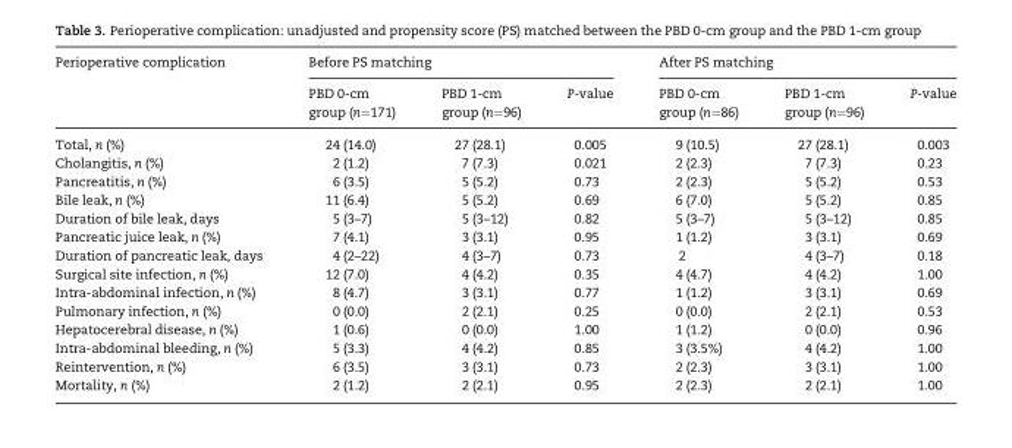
<table><thead><tr><td rowspan="2">Perioperative complication</td><td colspan="3">Before PS matching</td><td colspan="3">After PS matching</td></tr><tr><td>PBD 0-cm group (n=171)</td><td>PBD 1-cm group (n=96)</td><td>P-value</td><td>PBD 0-cm group (n=86)</td><td>PBD 1-cm group (n=96)</td><td>P-value</td></tr></thead><tbody><tr><td>Total, n (%)</td><td>24 (14.0)</td><td>27 (28.1)</td><td>0.005</td><td>9 (10.5)</td><td>27 (28.1)</td><td>0.003</td></tr><tr><td>Cholangitis, n (%)</td><td>2 (1.2)</td><td>7 (7.3)</td><td>0.021</td><td>2 (2.3)</td><td>7 (7.3)</td><td>0.23</td></tr><tr><td>Pancreatitis, n (%)</td><td>6 (3.5)</td><td>5 (5.2)</td><td>0.73</td><td>2 (2.3)</td><td>5 (5.2)</td><td>0.53</td></tr><tr><td>Bile leak, n (%)</td><td>11 (6.4)</td><td>5 (5.2)</td><td>0.69</td><td>6 (7.0)</td><td>5 (5.2)</td><td>0.85</td></tr><tr><td>Duration of bile leak, days</td><td>5 (3–7)</td><td>5 (3–12)</td><td>0.82</td><td>5 (3–7)</td><td>5 (3–12)</td><td>0.85</td></tr><tr><td>Pancreatic juice leak, n (%)</td><td>7 (4.1)</td><td>3 (3.1)</td><td>0.95</td><td>1 (1.2)</td><td>3 (3.1)</td><td>0.69</td></tr><tr><td>Duration of pancreatic leak, days</td><td>4 (2–22)</td><td>4 (3–7)</td><td>0.73</td><td>2</td><td>4 (3–7)</td><td>0.18</td></tr><tr><td>Surgical site infection, n (%)</td><td>12 (7.0)</td><td>4 (4.2)</td><td>0.35</td><td>4 (4.7)</td><td>4 (4.2)</td><td>1.00</td></tr><tr><td>Intra-abdominal infection, n (%)</td><td>8 (4.7)</td><td>3 (3.1)</td><td>0.77</td><td>1 (1.2)</td><td>3 (3.1)</td><td>0.69</td></tr><tr><td>Pulmonary infection, n (%)</td><td>0 (0.0)</td><td>2 (2.1)</td><td>0.25</td><td>0 (0.0)</td><td>2 (2.1)</td><td>0.53</td></tr><tr><td>Hepatocerebral disease, n (%)</td><td>1 (0.6)</td><td>0 (0.0)</td><td>1.00</td><td>1 (1.2)</td><td>0 (0.0)</td><td>0.96</td></tr><tr><td>Intra-abdominal bleeding, n (%)</td><td>5 (3.3)</td><td>4 (4.2)</td><td>0.85</td><td>3 (3.5%)</td><td>4 (4.2)</td><td>1.00</td></tr><tr><td>Reintervention, n (%)</td><td>6 (3.5)</td><td>3 (3.1)</td><td>0.73</td><td>2 (2.3)</td><td>3 (3.1)</td><td>1.00</td></tr><tr><td>Mortality, n (%)</td><td>2 (1.2)</td><td>2 (2.1)</td><td>0.95</td><td>2 (2.3)</td><td>2 (2.1)</td><td>1.00</td></tr></tbody></table>